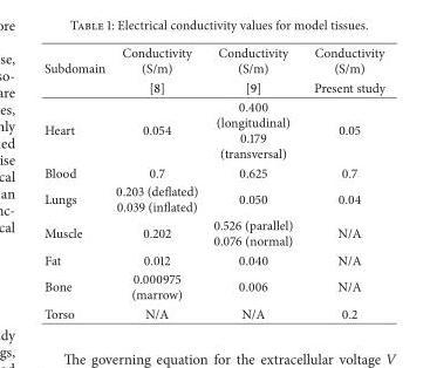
<table><thead><tr><td rowspan="2">Subdomain</td><td rowspan="2">Conductivity (S/m) [8]</td><td rowspan="2">Conductivity (S/m) [9]</td><td rowspan="2">Conductivity (S/m) Present study</td></tr><tr></tr></thead><tbody><tr><td>Heart</td><td>0.054</td><td>0.400 (longitudinal) 0.179 (transversal)</td><td>0.05</td></tr><tr><td>Blood</td><td>0.7</td><td>0.625</td><td>0.7</td></tr><tr><td>Lungs</td><td>0.203 (deflated) 0.039 (inflated)</td><td>0.050</td><td>0.04</td></tr><tr><td>Muscle</td><td>0.202</td><td>0.526 (parallel) 0.076 (normal)</td><td>N/A</td></tr><tr><td>Fat</td><td>0.012</td><td>0.040</td><td>N/A</td></tr><tr><td>Bone</td><td>0.000975 (marrow)</td><td>0.006</td><td>N/A</td></tr><tr><td>Torso</td><td>N/A</td><td>N/A</td><td>0.2</td></tr></tbody></table>